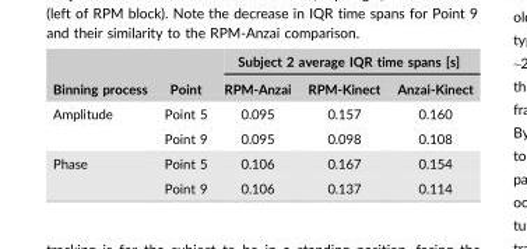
<table><thead><tr><td rowspan="2">Binning process</td><td rowspan="2">Point</td><td colspan="3">Subject 2 average IQR time spans [s]</td></tr><tr><td>RPM-Anzai</td><td>RPM-Kinect</td><td>Anzai-Kinect</td></tr></thead><tbody><tr><td rowspan="2">Amplitude</td><td>Point 5</td><td>0.095</td><td>0.157</td><td>0.160</td></tr><tr><td>Point 9</td><td>0.095</td><td>0.098</td><td>0.108</td></tr><tr><td rowspan="2">Phase</td><td>Point 5</td><td>0.106</td><td>0.167</td><td>0.154</td></tr><tr><td>Point 9</td><td>0.106</td><td>0.137</td><td>0.114</td></tr></tbody></table>